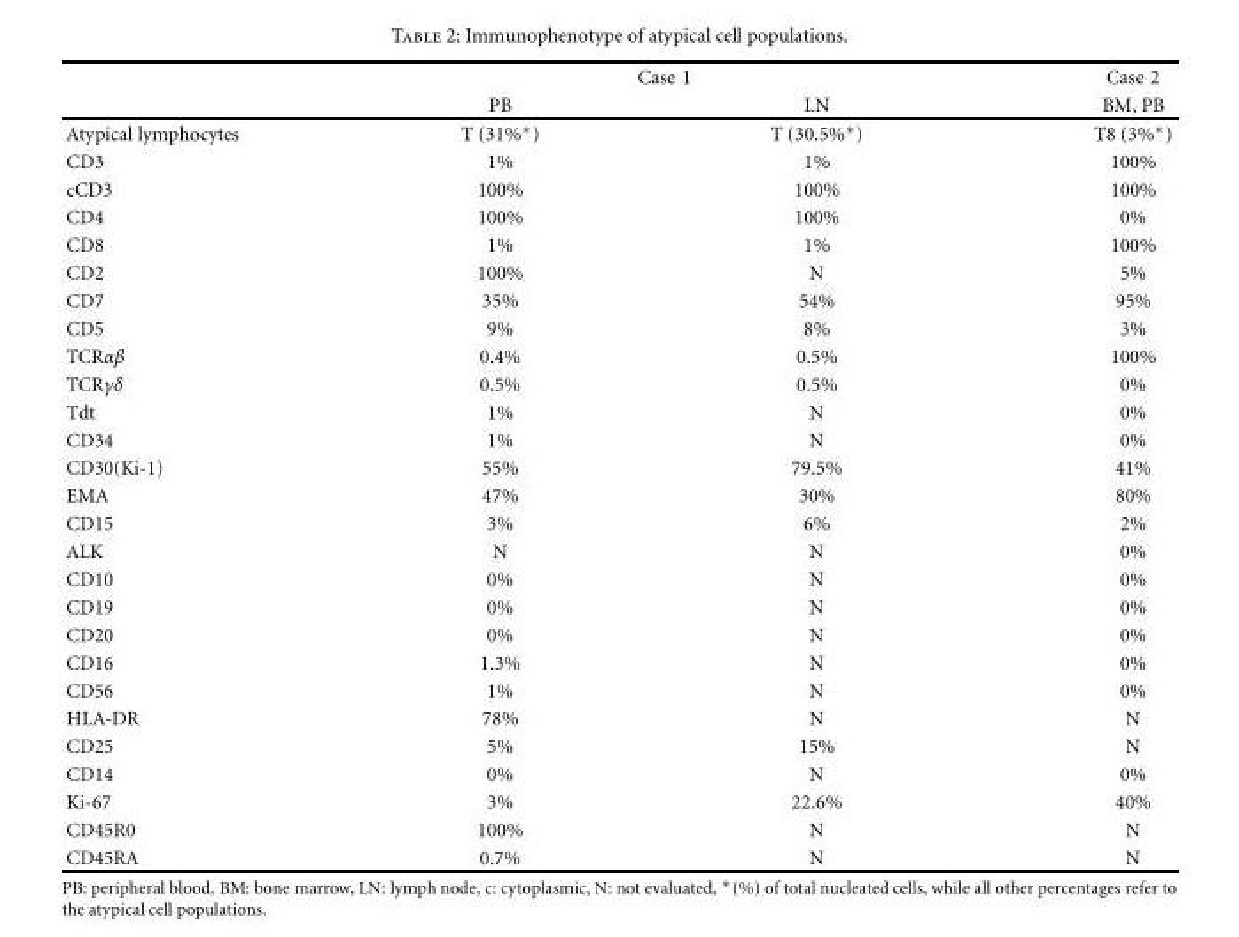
<table><thead><tr><td rowspan="2"></td><td colspan="2">Case 1</td><td rowspan="2">Case 2 BM, PB</td></tr><tr><td>PB</td><td>LN</td></tr></thead><tbody><tr><td>Atypical lymphocytes</td><td>T (31%∗)</td><td>T (30.5%∗)</td><td>T8 (3%∗)</td></tr><tr><td>CD3</td><td>1%</td><td>1%</td><td>100%</td></tr><tr><td>cCD3</td><td>100%</td><td>100%</td><td>100%</td></tr><tr><td>CD4</td><td>100%</td><td>100%</td><td>0%</td></tr><tr><td>CD8</td><td>1%</td><td>1%</td><td>100%</td></tr><tr><td>CD2</td><td>100%</td><td>N</td><td>5%</td></tr><tr><td>CD7</td><td>35%</td><td>54%</td><td>95%</td></tr><tr><td>CD5</td><td>9%</td><td>8%</td><td>3%</td></tr><tr><td>TCRαβ</td><td>0.4%</td><td>0.5%</td><td>100%</td></tr><tr><td>TCRγδ</td><td>0.5%</td><td>0.5%</td><td>0%</td></tr><tr><td>Tdt</td><td>1%</td><td>N</td><td>0%</td></tr><tr><td>CD34</td><td>1%</td><td>N</td><td>0%</td></tr><tr><td>CD30(Ki-1)</td><td>55%</td><td>79.5%</td><td>41%</td></tr><tr><td>EMA</td><td>47%</td><td>30%</td><td>80%</td></tr><tr><td>CD15</td><td>3%</td><td>6%</td><td>2%</td></tr><tr><td>ALK</td><td>N</td><td>N</td><td>0%</td></tr><tr><td>CD10</td><td>0%</td><td>N</td><td>0%</td></tr><tr><td>CD19</td><td>0%</td><td>N</td><td>0%</td></tr><tr><td>CD20</td><td>0%</td><td>N</td><td>0%</td></tr><tr><td>CD16</td><td>1.3%</td><td>N</td><td>0%</td></tr><tr><td>CD56</td><td>1%</td><td>N</td><td>0%</td></tr><tr><td>HLA-DR</td><td>78%</td><td>N</td><td>N</td></tr><tr><td>CD25</td><td>5%</td><td>15%</td><td>N</td></tr><tr><td>CD14</td><td>0%</td><td>N</td><td>0%</td></tr><tr><td>Ki-67</td><td>3%</td><td>22.6%</td><td>40%</td></tr><tr><td>CD45R0</td><td>100%</td><td>N</td><td>N</td></tr><tr><td>CD45RA</td><td>0.7%</td><td>N</td><td>N</td></tr></tbody></table>